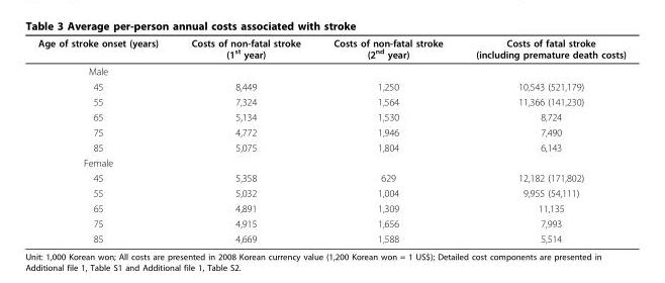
<table><thead><tr><td>Age of stroke onset (years)</td><td>Costs of non-fatal stroke (1<sup>st</sup> year)</td><td>Costs of non-fatal stroke (2<sup>nd</sup> year)</td><td>Costs of fatal stroke (including premature death costs)</td></tr></thead><tbody><tr><td colspan="4">Male</td></tr><tr><td>45</td><td>8,449</td><td>1,250</td><td>10,543 (521,179)</td></tr><tr><td>55</td><td>7,324</td><td>1,564</td><td>11,366 (141,230)</td></tr><tr><td>65</td><td>5,134</td><td>1,530</td><td>8,724</td></tr><tr><td>75</td><td>4,772</td><td>1,946</td><td>7,490</td></tr><tr><td>85</td><td>5,075</td><td>1,804</td><td>6,143</td></tr><tr><td colspan="4">Female</td></tr><tr><td>45</td><td>5,358</td><td>629</td><td>12,182 (171,802)</td></tr><tr><td>55</td><td>5,032</td><td>1,004</td><td>9,955 (54,111)</td></tr><tr><td>65</td><td>4,891</td><td>1,309</td><td>11,135</td></tr><tr><td>75</td><td>4,915</td><td>1,656</td><td>7,993</td></tr><tr><td>85</td><td>4,669</td><td>1,588</td><td>5,514</td></tr></tbody></table>